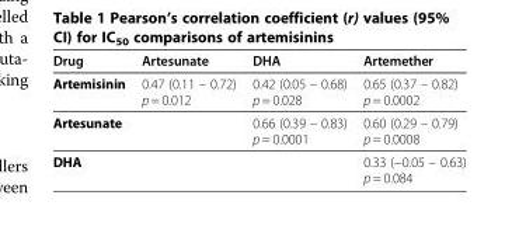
<table><thead><tr><td>Drug</td><td>Artesunate</td><td>DHA</td><td>Artemether</td></tr></thead><tbody><tr><td>Artemisinin</td><td>0.47 (0.11 – 0.72) p = 0.012</td><td>0.42 (0.05 – 0.68) p = 0.028</td><td>0.65 (0.37 – 0.82) p = 0.0002</td></tr><tr><td>Artesunate</td><td></td><td>0.66 (0.39 – 0.83) p = 0.0001</td><td>0.60 (0.29 – 0.79) p = 0.0008</td></tr><tr><td>DHA</td><td></td><td></td><td>0.33 (−0.05 – 0.63) p = 0.084</td></tr></tbody></table>